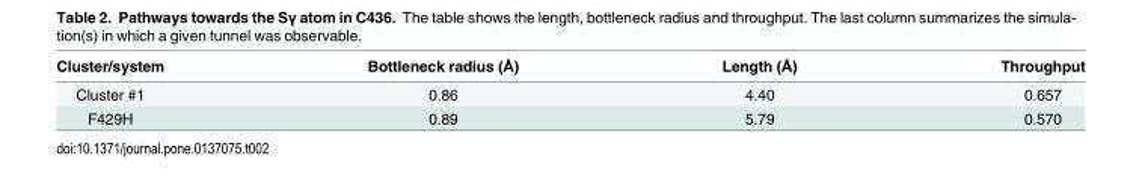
<table><thead><tr><td>Cluster/system</td><td>Bottleneck radius (Å)</td><td>Length (Å)</td><td>Throughput</td></tr></thead><tbody><tr><td>Cluster #1</td><td>0.86</td><td>4.40</td><td>0.657</td></tr><tr><td>F429H</td><td>0.89</td><td>5.79</td><td>0.570</td></tr></tbody></table>